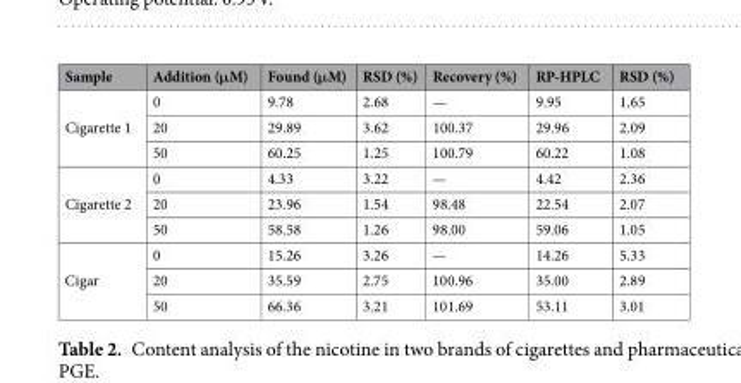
<table><thead><tr><td>Sample</td><td>Addition (μM)</td><td>Found (μM)</td><td>RSD (%)</td><td>Recovery (%)</td><td>RP-HPLC</td><td>RSD (%)</td></tr></thead><tbody><tr><td rowspan="3">Cigarette 1</td><td>0</td><td>9.78</td><td>2.68</td><td>—</td><td>9.95</td><td>1.65</td></tr><tr><td>20</td><td>29.89</td><td>3.62</td><td>100.37</td><td>29.96</td><td>2.09</td></tr><tr><td>50</td><td>60.25</td><td>1.25</td><td>100.79</td><td>60.22</td><td>1.08</td></tr><tr><td rowspan="3">Cigarette 2</td><td>0</td><td>4.33</td><td>3.22</td><td>—</td><td>4.42</td><td>2.36</td></tr><tr><td>20</td><td>23.96</td><td>1.54</td><td>98.48</td><td>22.54</td><td>2.07</td></tr><tr><td>50</td><td>58.58</td><td>1.26</td><td>98.00</td><td>59.06</td><td>1.05</td></tr><tr><td rowspan="3">Cigar</td><td>0</td><td>15.26</td><td>3.26</td><td>—</td><td>14.26</td><td>5.33</td></tr><tr><td>20</td><td>35.59</td><td>2.75</td><td>100.96</td><td>35.00</td><td>2.89</td></tr><tr><td>50</td><td>66.36</td><td>3.21</td><td>101.69</td><td>53.11</td><td>3.01</td></tr></tbody></table>